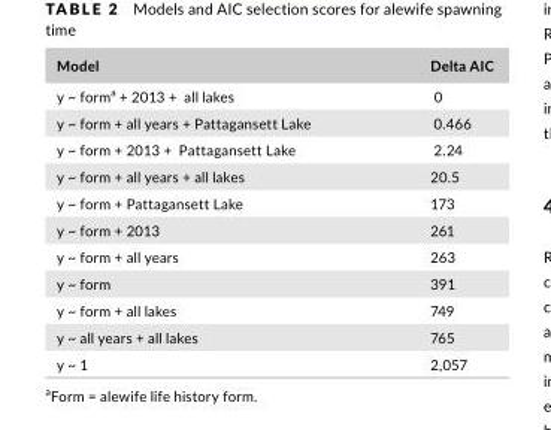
<table><thead><tr><td>Model</td><td>Delta AIC</td></tr></thead><tbody><tr><td>y ~ form<sup>a</sup> + 2013 + all lakes</td><td>0</td></tr><tr><td>y ~ form + all years + Pattagansett Lake</td><td>0.466</td></tr><tr><td>y ~ form + 2013 + Pattagansett Lake</td><td>2.24</td></tr><tr><td>y ~ form + all years + all lakes</td><td>20.5</td></tr><tr><td>y ~ form + Pattagansett Lake</td><td>173</td></tr><tr><td>y ~ form + 2013</td><td>261</td></tr><tr><td>y ~ form + all years</td><td>263</td></tr><tr><td>y ~ form</td><td>391</td></tr><tr><td>y ~ form + all lakes</td><td>749</td></tr><tr><td>y ~ all years + all lakes</td><td>765</td></tr><tr><td>y ~ 1</td><td>2,057</td></tr></tbody></table>